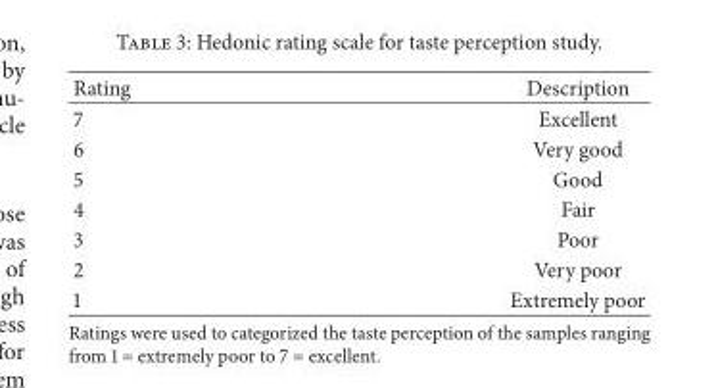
<table><thead><tr><td>Rating</td><td>Description</td></tr></thead><tbody><tr><td>7</td><td>Excellent</td></tr><tr><td>6</td><td>Very good</td></tr><tr><td>5</td><td>Good</td></tr><tr><td>4</td><td>Fair</td></tr><tr><td>3</td><td>Poor</td></tr><tr><td>2</td><td>Very poor</td></tr><tr><td>1</td><td>Extremely poor</td></tr></tbody></table>